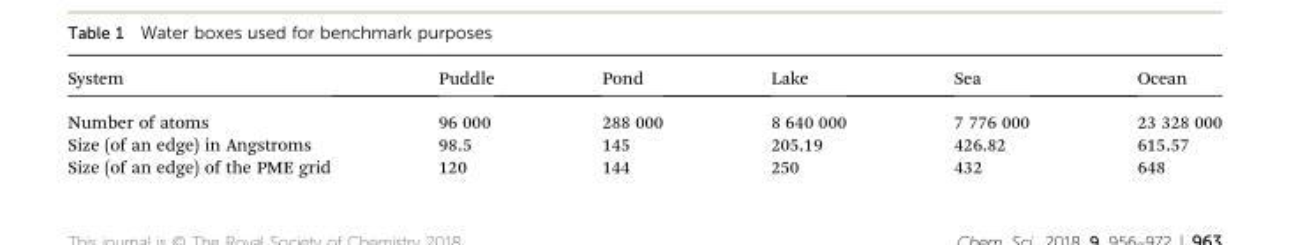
<table><thead><tr><td>System</td><td>Puddle</td><td>Pond</td><td>Lake</td><td>Sea</td><td>Ocean</td></tr></thead><tbody><tr><td>Number of atoms</td><td>96 000</td><td>288 000</td><td>8 640 000</td><td>7 776 000</td><td>23 328 000</td></tr><tr><td>Size (of an edge) in Angstroms</td><td>98.5</td><td>145</td><td>205.19</td><td>426.82</td><td>615.57</td></tr><tr><td>Size (of an edge) of the PME grid</td><td>120</td><td>144</td><td>250</td><td>432</td><td>648</td></tr></tbody></table>